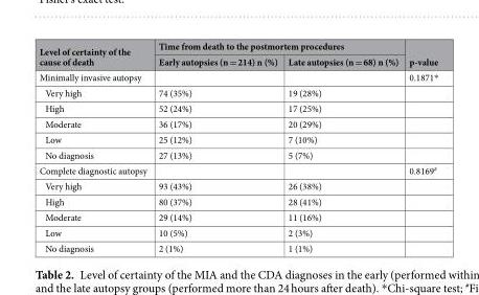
<table><thead><tr><td rowspan="2">Level of certainty of the cause of death</td><td colspan="2">Time from death to the postmortem procedures</td><td rowspan="2">p-value</td></tr><tr><td>Early autopsies (n = 214) n (%)</td><td>Late autopsies (n = 68) n (%)</td></tr></thead><tbody><tr><td>Minimally invasive autopsy</td><td></td><td></td><td>0.1871*</td></tr><tr><td>Very high</td><td>74 (35%)</td><td>19 (28%)</td><td></td></tr><tr><td>High</td><td>52 (24%)</td><td>17 (25%)</td><td></td></tr><tr><td>Moderate</td><td>36 (17%)</td><td>20 (29%)</td><td></td></tr><tr><td>Low</td><td>25 (12%)</td><td>7 (10%)</td><td></td></tr><tr><td>No diagnosis</td><td>27 (13%)</td><td>5 (7%)</td><td></td></tr><tr><td>Complete diagnostic autopsy</td><td></td><td></td><td>0.8169<sup>#</sup></td></tr><tr><td>Very high</td><td>93 (43%)</td><td>26 (38%)</td><td></td></tr><tr><td>High</td><td>80 (37%)</td><td>28 (41%)</td><td></td></tr><tr><td>Moderate</td><td>29 (14%)</td><td>11 (16%)</td><td></td></tr><tr><td>Low</td><td>10 (5%)</td><td>2 (3%)</td><td></td></tr><tr><td>No diagnosis</td><td>2 (1%)</td><td>1 (1%)</td><td></td></tr></tbody></table>